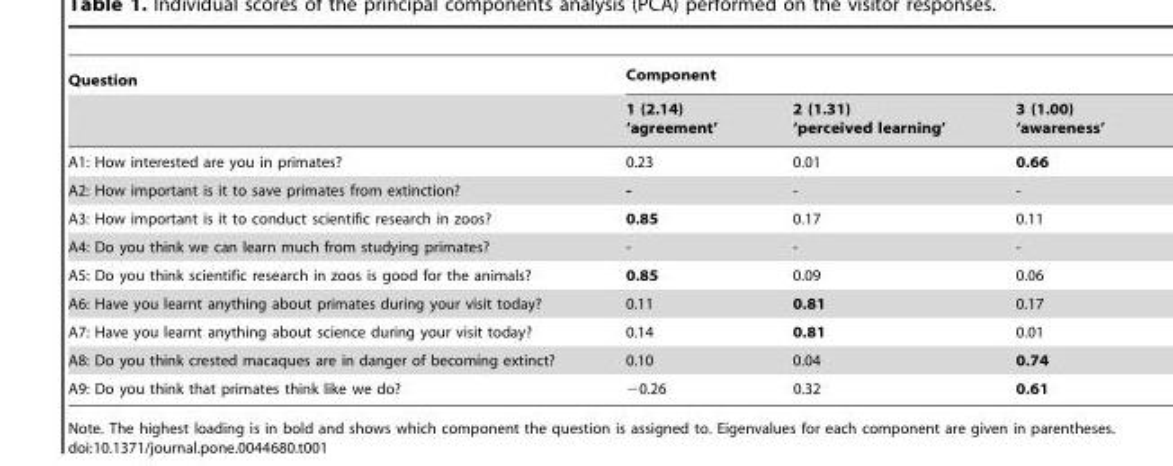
<table><thead><tr><td rowspan="2">Question</td><td colspan="3">Component</td></tr><tr><td>1 (2.14) ‘agreement’</td><td>2 (1.31) ‘perceived learning’</td><td>3 (1.00) ‘awareness’</td></tr></thead><tbody><tr><td>A1: How interested are you in primates?</td><td>0.23</td><td>0.01</td><td>0.66</td></tr><tr><td>A2: How important is it to save primates from extinction?</td><td>-</td><td>-</td><td>-</td></tr><tr><td>A3: How important is it to conduct scientific research in zoos?</td><td>0.85</td><td>0.17</td><td>0.11</td></tr><tr><td>A4: Do you think we can learn much from studying primates?</td><td>-</td><td>-</td><td>-</td></tr><tr><td>A5: Do you think scientific research in zoos is good for the animals?</td><td>0.85</td><td>0.09</td><td>0.06</td></tr><tr><td>A6: Have you learnt anything about primates during your visit today?</td><td>0.11</td><td>0.81</td><td>0.17</td></tr><tr><td>A7: Have you learnt anything about science during your visit today?</td><td>0.14</td><td>0.81</td><td>0.01</td></tr><tr><td>A8: Do you think crested macaques are in danger of becoming extinct?</td><td>0.10</td><td>0.04</td><td>0.74</td></tr><tr><td>A9: Do you think that primates think like we do?</td><td>−0.26</td><td>0.32</td><td>0.61</td></tr></tbody></table>